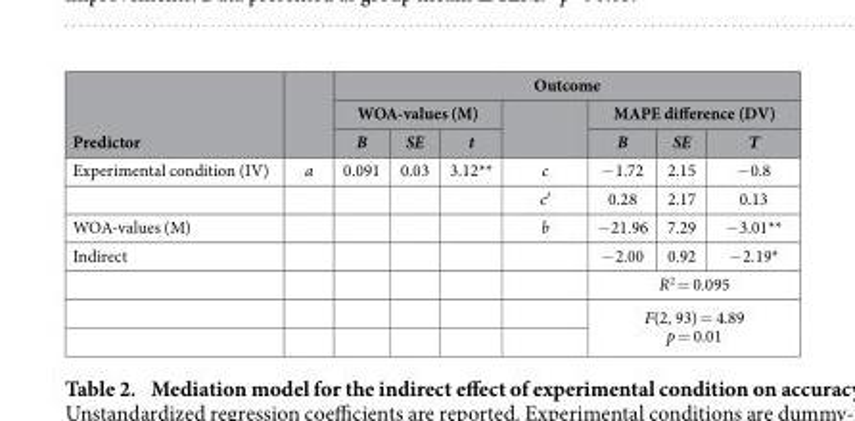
<table><thead><tr><td rowspan="3">Predictor</td><td rowspan="3"></td><td colspan="7">Outcome</td></tr><tr><td colspan="3">WOA-values (M)</td><td rowspan="2"></td><td colspan="3">MAPE difference (DV)</td></tr><tr><td>B</td><td>SE</td><td>t</td><td>B</td><td>SE</td><td>T</td></tr></thead><tbody><tr><td rowspan="2">Experimental condition (IV)</td><td>a</td><td>0.091</td><td>0.03</td><td>3.12**</td><td>c</td><td>− 1.72</td><td>2.15</td><td>− 0.8</td></tr><tr><td></td><td></td><td></td><td></td><td>c′</td><td>0.28</td><td>2.17</td><td>0.13</td></tr><tr><td>WOA-values (M)</td><td></td><td></td><td></td><td></td><td>b</td><td>− 21.96</td><td>7.29</td><td>− 3.01**</td></tr><tr><td rowspan="3">Indirect</td><td></td><td></td><td></td><td></td><td></td><td>− 2.00</td><td>0.92</td><td>− 2.19*</td></tr><tr><td></td><td></td><td></td><td></td><td></td><td colspan="3">R<sup>2</sup> = 0.095</td></tr><tr><td></td><td></td><td></td><td></td><td></td><td colspan="3">F(2, 93) = 4.89 p = 0.01</td></tr></tbody></table>